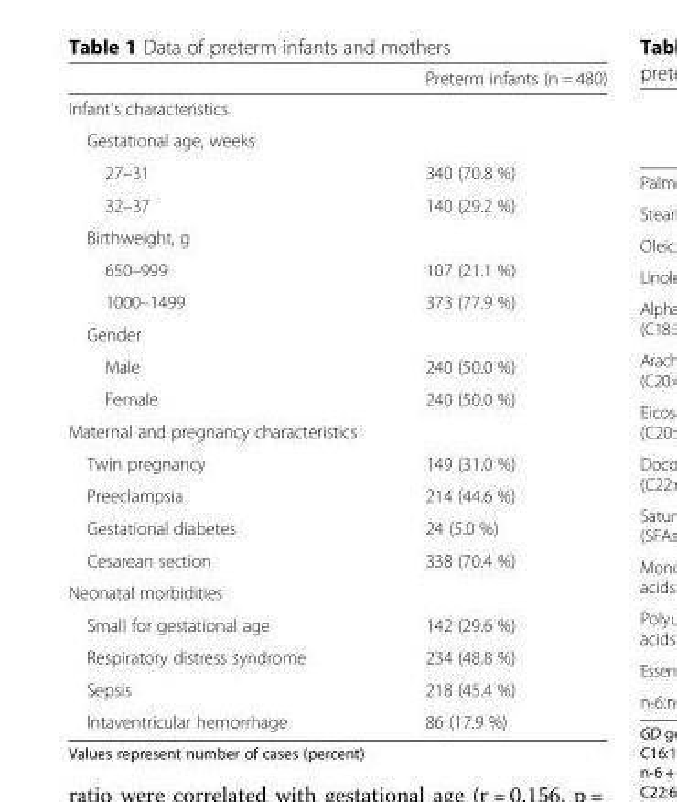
<table><thead><tr><td></td><td>Preterm infants (n = 480)</td></tr></thead><tbody><tr><td colspan="2">Infant&#x27;s characteristics</td></tr><tr><td colspan="2">Gestational age, weeks</td></tr><tr><td>27–31</td><td>340 (70.8 %)</td></tr><tr><td>32–37</td><td>140 (29.2 %)</td></tr><tr><td colspan="2">Birthweight, g</td></tr><tr><td>650–999</td><td>107 (21.1 %)</td></tr><tr><td>1000–1499</td><td>373 (77.9 %)</td></tr><tr><td colspan="2">Gender</td></tr><tr><td>Male</td><td>240 (50.0 %)</td></tr><tr><td>Female</td><td>240 (50.0 %)</td></tr><tr><td colspan="2">Maternal and pregnancy characteristics</td></tr><tr><td>Twin pregnancy</td><td>149 (31.0 %)</td></tr><tr><td>Preeclampsia</td><td>214 (44.6 %)</td></tr><tr><td>Gestational diabetes</td><td>24 (5.0 %)</td></tr><tr><td>Cesarean section</td><td>338 (70.4 %)</td></tr><tr><td colspan="2">Neonatal morbidities</td></tr><tr><td>Small for gestational age</td><td>142 (29.6 %)</td></tr><tr><td>Respiratory distress syndrome</td><td>234 (48.8 %)</td></tr><tr><td>Sepsis</td><td>218 (45.4 %)</td></tr><tr><td>Intaventricular hemorrhage</td><td>86 (17.9 %)</td></tr></tbody></table>